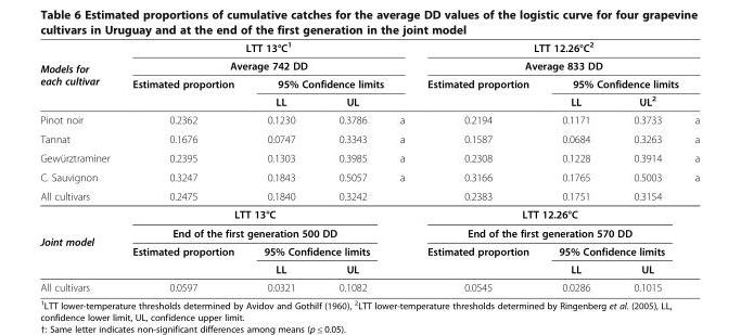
<table><thead><tr><td rowspan="4">Models for each cultivar</td><td rowspan="2" colspan="4">LTT 13°C<sup>1</sup> Average 742 DD</td><td rowspan="2" colspan="4">LTT 12.26°C<sup>2</sup> Average 833 DD</td></tr><tr></tr><tr><td rowspan="2">Estimated proportion</td><td colspan="3">95% Confidence limits</td><td rowspan="2">Estimated proportion</td><td colspan="3">95% Confidence limits</td></tr><tr><td>LL</td><td>UL</td><td></td><td>LL</td><td>UL<sup>2</sup></td><td></td></tr></thead><tbody><tr><td>Pinot noir</td><td>0.2362</td><td>0.1230</td><td>0.3786</td><td>a</td><td>0.2194</td><td>0.1171</td><td>0.3733</td><td>a</td></tr><tr><td>Tannat</td><td>0.1676</td><td>0.0747</td><td>0.3343</td><td>a</td><td>0.1587</td><td>0.0684</td><td>0.3263</td><td>a</td></tr><tr><td>Gewürztraminer</td><td>0.2395</td><td>0.1303</td><td>0.3985</td><td>a</td><td>0.2308</td><td>0.1228</td><td>0.3914</td><td>a</td></tr><tr><td>C. Sauvignon</td><td>0.3247</td><td>0.1843</td><td>0.5057</td><td>a</td><td>0.3166</td><td>0.1765</td><td>0.5003</td><td>a</td></tr><tr><td>All cultivars</td><td>0.2475</td><td>0.1840</td><td>0.3242</td><td></td><td>0.2383</td><td>0.1751</td><td>0.3154</td><td></td></tr><tr><td rowspan="4">Joint model</td><td colspan="3">LTT 13°C</td><td></td><td colspan="3">LTT 12.26°C</td><td rowspan="2"></td></tr><tr><td colspan="3">End of the first generation 500 DD</td><td></td><td colspan="3">End of the first generation 570 DD</td></tr><tr><td rowspan="2">Estimated proportion</td><td colspan="2">95% Confidence limits</td><td></td><td rowspan="2">Estimated proportion</td><td colspan="2">95% Confidence limits</td><td></td></tr><tr><td>LL</td><td>UL</td><td></td><td>LL</td><td>UL</td><td></td></tr><tr><td>All cultivars</td><td>0.0597</td><td>0.0321</td><td>0.1082</td><td></td><td>0.0545</td><td>0.0286</td><td>0.1015</td><td></td></tr></tbody></table>